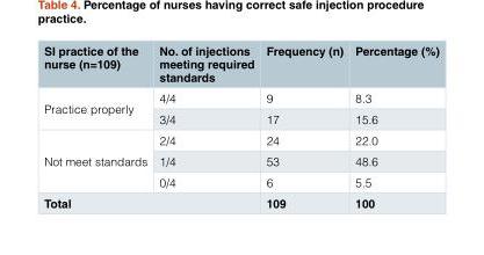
<table><thead><tr><td>SI practice of the nurse (n=109)</td><td>No. of injections meeting required standards</td><td>Frequency (n)</td><td>Percentage (%)</td></tr></thead><tbody><tr><td rowspan="2">Practice properly</td><td>4/4</td><td>9</td><td>8.3</td></tr><tr><td>3/4</td><td>17</td><td>15.6</td></tr><tr><td rowspan="3">Not meet standards</td><td>2/4</td><td>24</td><td>22.0</td></tr><tr><td>1/4</td><td>53</td><td>48.6</td></tr><tr><td>0/4</td><td>6</td><td>5.5</td></tr><tr><td colspan="2">Total</td><td>109</td><td>100</td></tr></tbody></table>